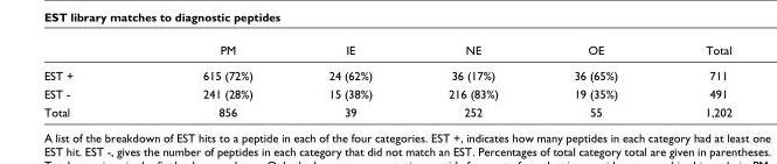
<table><thead><tr><td></td><td>PM</td><td>IE</td><td>NE</td><td>OE</td><td>Total</td></tr></thead><tbody><tr><td>EST +</td><td>615 (72%)</td><td>24 (62%)</td><td>36 (17%)</td><td>36 (65%)</td><td>711</td></tr><tr><td>EST -</td><td>241 (28%)</td><td>15 (38%)</td><td>216 (83%)</td><td>19 (35%)</td><td>491</td></tr><tr><td>Total</td><td>856</td><td>39</td><td>252</td><td>55</td><td>1,202</td></tr></tbody></table>